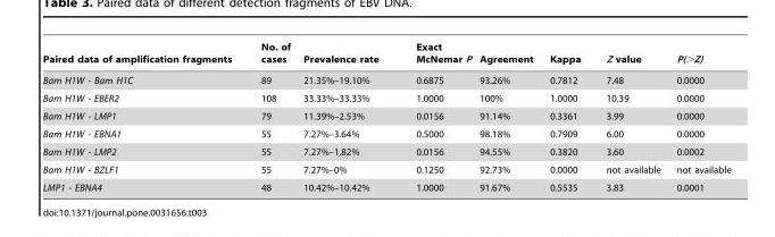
<table><thead><tr><td>Paired data of amplification fragments</td><td>No. of cases</td><td>Prevalence rate</td><td>Exact McNemar P</td><td>Agreement</td><td>Kappa</td><td>Z value</td><td>P(&gt;Z)</td></tr></thead><tbody><tr><td>Bam H1W - Bam H1C</td><td>89</td><td>21.35%–19.10%</td><td>0.6875</td><td>93.26%</td><td>0.7812</td><td>7.48</td><td>0.0000</td></tr><tr><td>Bam H1W - EBER2</td><td>108</td><td>33.33%–33.33%</td><td>1.0000</td><td>100%</td><td>1.0000</td><td>10.39</td><td>0.0000</td></tr><tr><td>Bam H1W - LMP1</td><td>79</td><td>11.39%–2.53%</td><td>0.0156</td><td>91.14%</td><td>0.3361</td><td>3.99</td><td>0.0000</td></tr><tr><td>Bam H1W - EBNA1</td><td>55</td><td>7.27%–3.64%</td><td>0.5000</td><td>98.18%</td><td>0.7909</td><td>6.00</td><td>0.0000</td></tr><tr><td>Bam H1W - LMP2</td><td>55</td><td>7.27%–1.82%</td><td>0.0156</td><td>94.55%</td><td>0.3820</td><td>3.60</td><td>0.0002</td></tr><tr><td>Bam H1W - BZLF1</td><td>55</td><td>7.27%–0%</td><td>0.1250</td><td>92.73%</td><td>0.0000</td><td>not available</td><td>not available</td></tr><tr><td>LMP1 - EBNA4</td><td>48</td><td>10.42%–10.42%</td><td>1.0000</td><td>91.67%</td><td>0.5535</td><td>3.83</td><td>0.0001</td></tr></tbody></table>